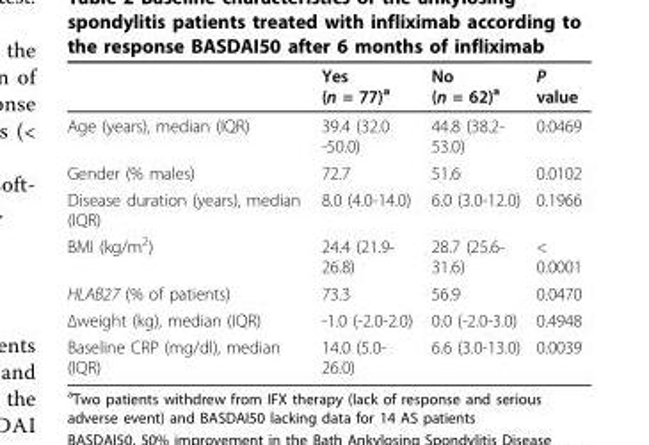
<table><thead><tr><td></td><td>Yes (n = 77)<sup>a</sup></td><td>No (n = 62)<sup>a</sup></td><td>P value</td></tr></thead><tbody><tr><td>Age (years), median (IQR)</td><td>39.4 (32.0 -50.0)</td><td>44.8 (38.2- 53.0)</td><td>0.0469</td></tr><tr><td>Gender (% males)</td><td>72.7</td><td>51.6</td><td>0.0102</td></tr><tr><td>Disease duration (years), median (IQR)</td><td>8.0 (4.0-14.0)</td><td>6.0 (3.0-12.0)</td><td>0.1966</td></tr><tr><td>BMI (kg/m<sup>2</sup>)</td><td>24.4 (21.9- 26.8)</td><td>28.7 (25.6- 31.6)</td><td>&lt; 0.0001</td></tr><tr><td>HLAB27 (% of patients)</td><td>73.3</td><td>56.9</td><td>0.0470</td></tr><tr><td>Δweight (kg), median (IQR)</td><td>-1.0 (-2.0-2.0)</td><td>0.0 (-2.0-3.0)</td><td>0.4948</td></tr><tr><td>Baseline CRP (mg/dl), median (IQR)</td><td>14.0 (5.0- 26.0)</td><td>6.6 (3.0-13.0)</td><td>0.0039</td></tr></tbody></table>